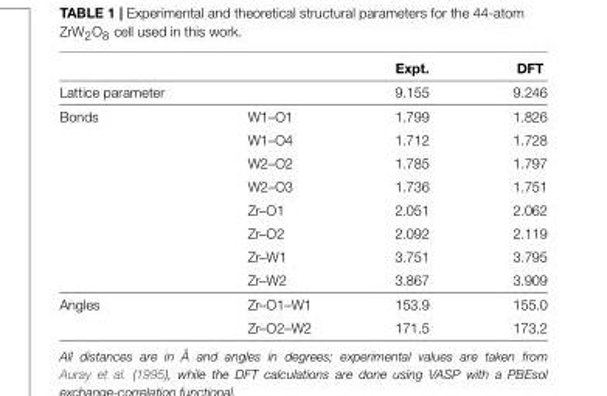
<table><thead><tr><td></td><td></td><td>Expt.</td><td>DFT</td></tr></thead><tbody><tr><td>Lattice parameter</td><td></td><td>9.155</td><td>9.246</td></tr><tr><td rowspan="8">Bonds</td><td>W1–O1</td><td>1.799</td><td>1.826</td></tr><tr><td>W1–O4</td><td>1.712</td><td>1.728</td></tr><tr><td>W2–O2</td><td>1.785</td><td>1.797</td></tr><tr><td>W2–O3</td><td>1.736</td><td>1.751</td></tr><tr><td>Zr–O1</td><td>2.051</td><td>2.062</td></tr><tr><td>Zr–O2</td><td>2.092</td><td>2.119</td></tr><tr><td>Zr–W1</td><td>3.751</td><td>3.795</td></tr><tr><td>Zr–W2</td><td>3.867</td><td>3.909</td></tr><tr><td rowspan="2">Angles</td><td>Zr–O1–W1</td><td>153.9</td><td>155.0</td></tr><tr><td>Zr–O2–W2</td><td>171.5</td><td>173.2</td></tr></tbody></table>